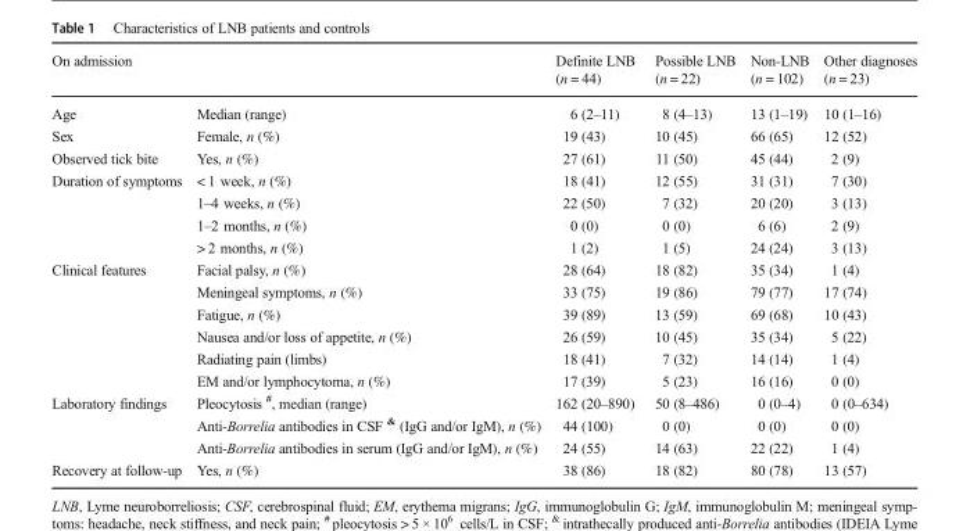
<table><thead><tr><td>On admission</td><td></td><td>Definite LNB (n = 44)</td><td>Possible LNB (n = 22)</td><td>Non-LNB (n = 102)</td><td>Other diagnoses (n = 23)</td></tr></thead><tbody><tr><td>Age</td><td>Median (range)</td><td>6 (2–11)</td><td>8 (4–13)</td><td>13 (1–19)</td><td>10 (1–16)</td></tr><tr><td>Sex</td><td>Female, n (%)</td><td>19 (43)</td><td>10 (45)</td><td>66 (65)</td><td>12 (52)</td></tr><tr><td>Observed tick bite</td><td>Yes, n (%)</td><td>27 (61)</td><td>11 (50)</td><td>45 (44)</td><td>2 (9)</td></tr><tr><td rowspan="4">Duration of symptoms</td><td>&lt; 1 week, n (%)</td><td>18 (41)</td><td>12 (55)</td><td>31 (31)</td><td>7 (30)</td></tr><tr><td>1–4 weeks, n (%)</td><td>22 (50)</td><td>7 (32)</td><td>20 (20)</td><td>3 (13)</td></tr><tr><td>1–2 months, n (%)</td><td>0 (0)</td><td>0 (0)</td><td>6 (6)</td><td>2 (9)</td></tr><tr><td>&gt; 2 months, n (%)</td><td>1 (2)</td><td>1 (5)</td><td>24 (24)</td><td>3 (13)</td></tr><tr><td rowspan="6">Clinical features</td><td>Facial palsy, n (%)</td><td>28 (64)</td><td>18 (82)</td><td>35 (34)</td><td>1 (4)</td></tr><tr><td>Meningeal symptoms, n (%)</td><td>33 (75)</td><td>19 (86)</td><td>79 (77)</td><td>17 (74)</td></tr><tr><td>Fatigue, n (%)</td><td>39 (89)</td><td>13 (59)</td><td>69 (68)</td><td>10 (43)</td></tr><tr><td>Nausea and/or loss of appetite, n (%)</td><td>26 (59)</td><td>10 (45)</td><td>35 (34)</td><td>5 (22)</td></tr><tr><td>Radiating pain (limbs)</td><td>18 (41)</td><td>7 (32)</td><td>14 (14)</td><td>1 (4)</td></tr><tr><td>EM and/or lymphocytoma, n (%)</td><td>17 (39)</td><td>5 (23)</td><td>16 (16)</td><td>0 (0)</td></tr><tr><td rowspan="3">Laboratory findings</td><td>Pleocytosis <sup>#</sup>, median (range)</td><td>162 (20–890)</td><td>50 (8–486)</td><td>0 (0–4)</td><td>0 (0–634)</td></tr><tr><td>Anti-Borrelia antibodies in CSF <sup>&amp;</sup> (IgG and/or IgM), n (%)</td><td>44 (100)</td><td>0 (0)</td><td>0 (0)</td><td>0 (0)</td></tr><tr><td>Anti-Borrelia antibodies in serum (IgG and/or IgM), n (%)</td><td>24 (55)</td><td>14 (63)</td><td>22 (22)</td><td>1 (4)</td></tr><tr><td>Recovery at follow-up</td><td>Yes, n (%)</td><td>38 (86)</td><td>18 (82)</td><td>80 (78)</td><td>13 (57)</td></tr></tbody></table>